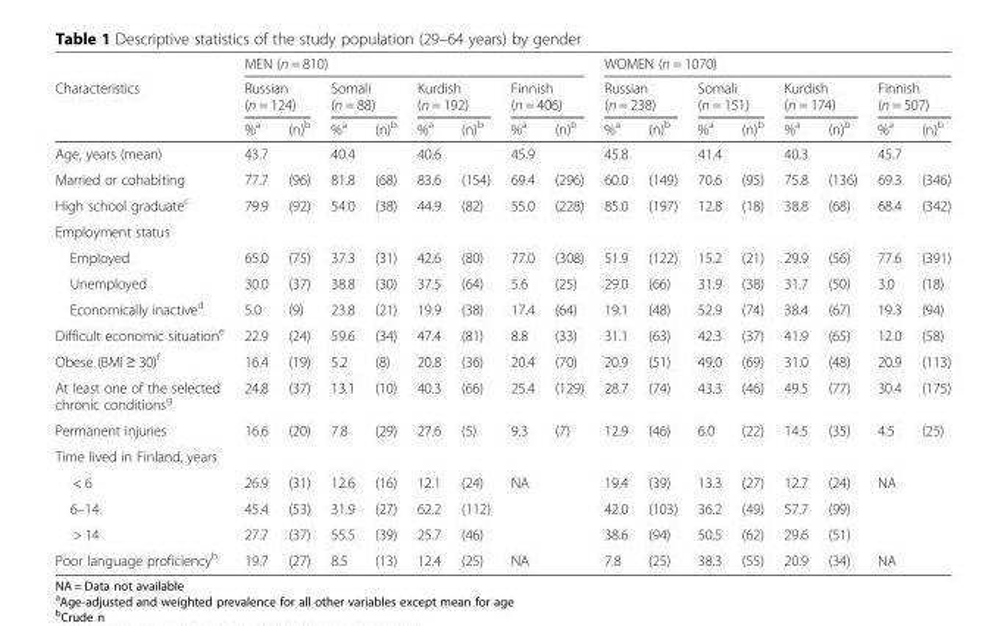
<table><thead><tr><td rowspan="3">Characteristics</td><td colspan="8">MEN (n = 810)</td><td colspan="8">WOMEN (n = 1070)</td></tr><tr><td colspan="2">Russian (n = 124)</td><td colspan="2">Somali (n = 88)</td><td colspan="2">Kurdish (n = 192)</td><td colspan="2">Finnish (n = 406)</td><td colspan="2">Russian (n = 238)</td><td colspan="2">Somali (n = 151)</td><td colspan="2">Kurdish (n = 174)</td><td colspan="2">Finnish (n = 507)</td></tr><tr><td>%<sup>a</sup></td><td>(n)<sup>b</sup></td><td>%<sup>a</sup></td><td>(n)<sup>b</sup></td><td>%<sup>a</sup></td><td>(n)<sup>b</sup></td><td>%<sup>a</sup></td><td>(n)<sup>b</sup></td><td>%<sup>a</sup></td><td>(n)<sup>b</sup></td><td>%<sup>a</sup></td><td>(n)<sup>b</sup></td><td>%<sup>a</sup></td><td>(n)<sup>b</sup></td><td>%<sup>a</sup></td><td>(n)<sup>b</sup></td></tr></thead><tbody><tr><td>Age, years (mean)</td><td colspan="2">43.7</td><td colspan="2">40.4</td><td colspan="2">40.6</td><td colspan="2">45.9</td><td colspan="2">45.8</td><td colspan="2">41.4</td><td colspan="2">40.3</td><td colspan="2">45.7</td></tr><tr><td>Married or cohabiting</td><td>77.7</td><td>(96)</td><td>81.8</td><td>(68)</td><td>83.6</td><td>(154)</td><td>69.4</td><td>(296)</td><td>60.0</td><td>(149)</td><td>70.6</td><td>(95)</td><td>75.8</td><td>(136)</td><td>69.3</td><td>(346)</td></tr><tr><td>High school graduate<sup>c</sup></td><td>79.9</td><td>(92)</td><td>54.0</td><td>(38)</td><td>44.9</td><td>(82)</td><td>55.0</td><td>(228)</td><td>85.0</td><td>(197)</td><td>12.8</td><td>(18)</td><td>38.8</td><td>(68)</td><td>68.4</td><td>(342)</td></tr><tr><td colspan="17">Employment status</td></tr><tr><td>Employed</td><td>65.0</td><td>(75)</td><td>37.3</td><td>(31)</td><td>42.6</td><td>(80)</td><td>77.0</td><td>(308)</td><td>51.9</td><td>(122)</td><td>15.2</td><td>(21)</td><td>29.9</td><td>(56)</td><td>77.6</td><td>(391)</td></tr><tr><td>Unemployed</td><td>30.0</td><td>(37)</td><td>38.8</td><td>(30)</td><td>37.5</td><td>(64)</td><td>5.6</td><td>(25)</td><td>29.0</td><td>(66)</td><td>31.9</td><td>(38)</td><td>31.7</td><td>(50)</td><td>3.0</td><td>(18)</td></tr><tr><td>Economically inactive<sup>d</sup></td><td>5.0</td><td>(9)</td><td>23.8</td><td>(21)</td><td>19.9</td><td>(38)</td><td>17.4</td><td>(64)</td><td>19.1</td><td>(48)</td><td>52.9</td><td>(74)</td><td>38.4</td><td>(67)</td><td>19.3</td><td>(94)</td></tr><tr><td>Difficult economic situation<sup>e</sup></td><td>22.9</td><td>(24)</td><td>59.6</td><td>(34)</td><td>47.4</td><td>(81)</td><td>8.8</td><td>(33)</td><td>31.1</td><td>(63)</td><td>42.3</td><td>(37)</td><td>41.9</td><td>(65)</td><td>12.0</td><td>(58)</td></tr><tr><td>Obese (BMI ≥ 30)<sup>f</sup></td><td>16.4</td><td>(19)</td><td>5.2</td><td>(8)</td><td>20.8</td><td>(36)</td><td>20.4</td><td>(70)</td><td>20.9</td><td>(51)</td><td>49.0</td><td>(69)</td><td>31.0</td><td>(48)</td><td>20.9</td><td>(113)</td></tr><tr><td>At least one of the selected chronic conditions<sup>g</sup></td><td>24.8</td><td>(37)</td><td>13.1</td><td>(10)</td><td>40.3</td><td>(66)</td><td>25.4</td><td>(129)</td><td>28.7</td><td>(74)</td><td>43.3</td><td>(46)</td><td>49.5</td><td>(77)</td><td>30.4</td><td>(175)</td></tr><tr><td>Permanent injuries</td><td>16.6</td><td>(20)</td><td>7.8</td><td>(29)</td><td>27.6</td><td>(5)</td><td>9.3</td><td>(7)</td><td>12.9</td><td>(46)</td><td>6.0</td><td>(22)</td><td>14.5</td><td>(35)</td><td>4.5</td><td>(25)</td></tr><tr><td colspan="17">Time lived in Finland, years</td></tr><tr><td>&lt; 6</td><td>26.9</td><td>(31)</td><td>12.6</td><td>(16)</td><td>12.1</td><td>(24)</td><td rowspan="3" colspan="2">NA</td><td>19.4</td><td>(39)</td><td>13.3</td><td>(27)</td><td>12.7</td><td>(24)</td><td rowspan="3" colspan="2">NA</td></tr><tr><td>6–14</td><td>45.4</td><td>(53)</td><td>31.9</td><td>(27)</td><td>62.2</td><td>(112)</td><td>42.0</td><td>(103)</td><td>36.2</td><td>(49)</td><td>57.7</td><td>(99)</td></tr><tr><td>&gt; 14</td><td>27.7</td><td>(37)</td><td>55.5</td><td>(39)</td><td>25.7</td><td>(46)</td><td>38.6</td><td>(94)</td><td>50.5</td><td>(62)</td><td>29.6</td><td>(51)</td></tr><tr><td>Poor language proficiency<sup>h</sup></td><td>19.7</td><td>(27)</td><td>8.5</td><td>(13)</td><td>12.4</td><td>(25)</td><td colspan="2">NA</td><td>7.8</td><td>(25)</td><td>38.3</td><td>(55)</td><td>20.9</td><td>(34)</td><td colspan="2">NA</td></tr></tbody></table>